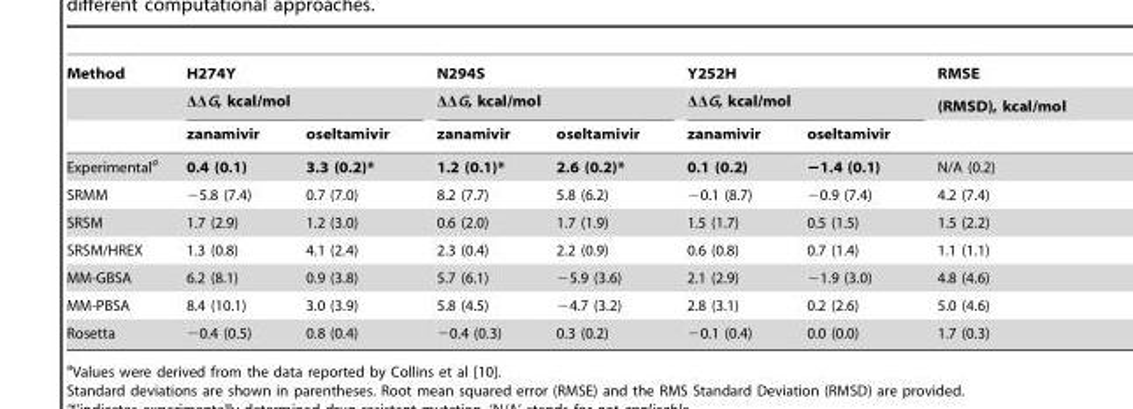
<table><thead><tr><td rowspan="3">Method</td><td rowspan="2" colspan="2">H274Y ΔΔG, kcal/mol</td><td rowspan="2" colspan="2">N294S ΔΔG, kcal/mol</td><td rowspan="2" colspan="2">Y252H ΔΔG, kcal/mol</td><td rowspan="3">RMSE (RMSD), kcal/mol</td></tr><tr></tr><tr><td>zanamivir</td><td>oseltamivir</td><td>zanamivir</td><td>oseltamivir</td><td>zanamivir</td><td>oseltamivir</td></tr></thead><tbody><tr><td>Experimental<sup>a</sup></td><td>0.4 (0.1)</td><td>3.3 (0.2)*</td><td>1.2 (0.1)*</td><td>2.6 (0.2)*</td><td>0.1 (0.2)</td><td>−1.4 (0.1)</td><td>N/A (0.2)</td></tr><tr><td>SRMM</td><td>−5.8 (7.4)</td><td>0.7 (7.0)</td><td>8.2 (7.7)</td><td>5.8 (6.2)</td><td>−0.1 (8.7)</td><td>−0.9 (7.4)</td><td>4.2 (7.4)</td></tr><tr><td>SRSM</td><td>1.7 (2.9)</td><td>1.2 (3.0)</td><td>0.6 (2.0)</td><td>1.7 (1.9)</td><td>1.5 (1.7)</td><td>0.5 (1.5)</td><td>1.5 (2.2)</td></tr><tr><td>SRSM/HREX</td><td>1.3 (0.8)</td><td>4.1 (2.4)</td><td>2.3 (0.4)</td><td>2.2 (0.9)</td><td>0.6 (0.8)</td><td>0.7 (1.4)</td><td>1.1 (1.1)</td></tr><tr><td>MM-GBSA</td><td>6.2 (8.1)</td><td>0.9 (3.8)</td><td>5.7 (6.1)</td><td>−5.9 (3.6)</td><td>2.1 (2.9)</td><td>−1.9 (3.0)</td><td>4.8 (4.6)</td></tr><tr><td>MM-PBSA</td><td>8.4 (10.1)</td><td>3.0 (3.9)</td><td>5.8 (4.5)</td><td>−4.7 (3.2)</td><td>2.8 (3.1)</td><td>0.2 (2.6)</td><td>5.0 (4.6)</td></tr><tr><td>Rosetta</td><td>−0.4 (0.5)</td><td>0.8 (0.4)</td><td>−0.4 (0.3)</td><td>0.3 (0.2)</td><td>−0.1 (0.4)</td><td>0.0 (0.0)</td><td>1.7 (0.3)</td></tr></tbody></table>